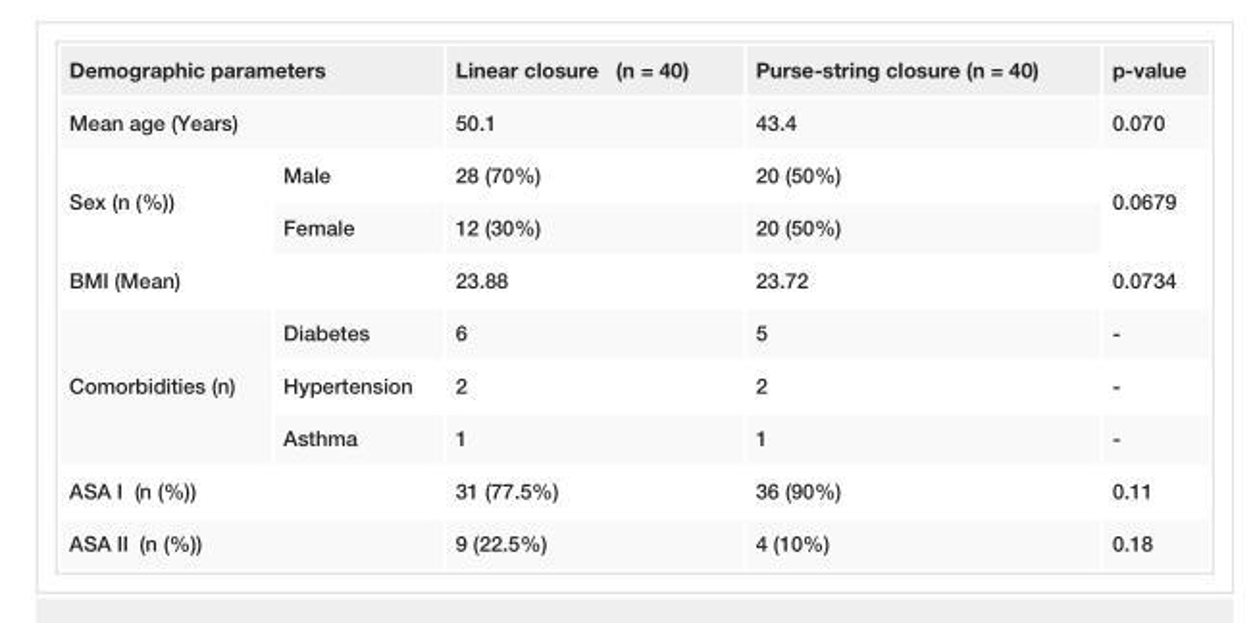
<table><tbody><tr><td colspan="2">Demographic parameters</td><td>Linear closure (n = 40)</td><td>Purse-string closure (n = 40)</td><td>p-value</td></tr><tr><td colspan="2">Mean age (Years)</td><td>50.1</td><td>43.4</td><td>0.070</td></tr><tr><td rowspan="2">Sex (n (%))</td><td>Male</td><td>28 (70%)</td><td>20 (50%)</td><td rowspan="2">0.0679</td></tr><tr><td>Female</td><td>12 (30%)</td><td>20 (50%)</td></tr><tr><td colspan="2">BMI (Mean)</td><td>23.88</td><td>23.72</td><td>0.0734</td></tr><tr><td rowspan="3">Comorbidities (n)</td><td>Diabetes</td><td>6</td><td>5</td><td>-</td></tr><tr><td>Hypertension</td><td>2</td><td>2</td><td>-</td></tr><tr><td>Asthma</td><td>1</td><td>1</td><td>-</td></tr><tr><td colspan="2">ASA I (n (%))</td><td>31 (77.5%)</td><td>36 (90%)</td><td>0.11</td></tr><tr><td colspan="2">ASA II (n (%))</td><td>9 (22.5%)</td><td>4 (10%)</td><td>0.18</td></tr></tbody></table>